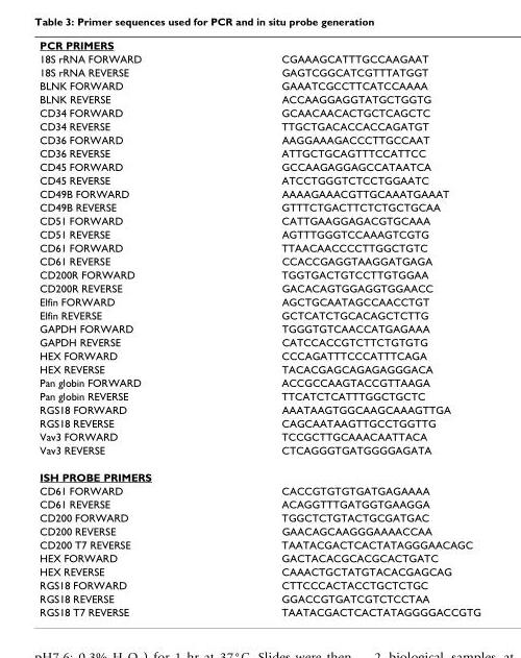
<table><tbody><tr><td colspan="2">PCR PRIMERS</td></tr><tr><td>18S rRNA FORWARD</td><td>CGAAAGCATTTGCCAAGAAT</td></tr><tr><td>18S rRNA REVERSE</td><td>GAGTCGGCATCGTTTATGGT</td></tr><tr><td>BLNK FORWARD</td><td>GAAATCGCCTTCATCCAAAA</td></tr><tr><td>BLNK REVERSE</td><td>ACCAAGGAGGTATGCTGGTG</td></tr><tr><td>CD34 FORWARD</td><td>GCAACAACACTGCTCAGCTC</td></tr><tr><td>CD34 REVERSE</td><td>TTGCTGACACCACCAGATGT</td></tr><tr><td>CD36 FORWARD</td><td>AAGGAAAGACCCTTGCCAAT</td></tr><tr><td>CD36 REVERSE</td><td>ATTGCTGCAGTTTCCATTCC</td></tr><tr><td>CD45 FORWARD</td><td>GCCAAGAGGAGCCATAATCA</td></tr><tr><td>CD45 REVERSE</td><td>ATCCTGGGTCTCCTGGAATC</td></tr><tr><td>CD49B FORWARD</td><td>AAAAGAAACGTTGCAAATGAAAT</td></tr><tr><td>CD49B REVERSE</td><td>GTTTCTGACTTCTCTGCTGCAA</td></tr><tr><td>CD51 FORWARD</td><td>CATTGAAGGAGACGTGCAAA</td></tr><tr><td>CD51 REVERSE</td><td>AGTTTGGGTCCAAAGTCGTG</td></tr><tr><td>CD61 FORWARD</td><td>TTAACAACCCCTTGGCTGTC</td></tr><tr><td>CD61 REVERSE</td><td>CCACCGAGGTAAGGATGAGA</td></tr><tr><td>CD200R FORWARD</td><td>TGGTGACTGTCCTTGTGGAA</td></tr><tr><td>CD200R REVERSE</td><td>GACACAGTGGAGGTGGAACC</td></tr><tr><td>Elfin FORWARD</td><td>AGCTGCAATAGCCAACCTGT</td></tr><tr><td>Elfin REVERSE</td><td>GCTCATCTGCACAGCTCTTG</td></tr><tr><td>GAPDH FORWARD</td><td>TGGGTGTCAACCATGAGAAA</td></tr><tr><td>GAPDH REVERSE</td><td>CATCCACCGTCTTCTGTGTG</td></tr><tr><td>HEX FORWARD</td><td>CCCAGATTTCCCATTTCAGA</td></tr><tr><td>HEX REVERSE</td><td>TACACGAGCAGAGAGGGACA</td></tr><tr><td>Pan globin FORWARD</td><td>ACCGCCAAGTACCGTTAAGA</td></tr><tr><td>Pan globin REVERSE</td><td>TTCATCTCATTTGGCTGCTC</td></tr><tr><td>RGS18 FORWARD</td><td>AAATAAGTGGCAAGCAAAGTTGA</td></tr><tr><td>RGS18 REVERSE</td><td>CAGCAATAAGTTGCCTGGTTG</td></tr><tr><td>Vav3 FORWARD</td><td>TCCGCTTGCAAACAATTACA</td></tr><tr><td>Vav3 REVERSE</td><td>CTCAGGGTGATGGGGAGATA</td></tr><tr><td colspan="2">ISH PROBE PRIMERS</td></tr><tr><td>CD61 FORWARD</td><td>CACCGTGTGTGATGAGAAAA</td></tr><tr><td>CD61 REVERSE</td><td>ACAGGTTTGATGGTGAAGGA</td></tr><tr><td>CD200 FORWARD</td><td>TGGCTCTGTACTGCGATGAC</td></tr><tr><td>CD200 REVERSE</td><td>GAACAGCAAGGGAAAACCAA</td></tr><tr><td>CD200 T7 REVERSE</td><td>TAATACGACTCACTATAGGGAACAGC</td></tr><tr><td>HEX FORWARD</td><td>GACTACACGCACGCACTGATC</td></tr><tr><td>HEX REVERSE</td><td>CAAACTGCTATGTACACGAGCAG</td></tr><tr><td>RGS18 FORWARD</td><td>CTTCCCACTACCTGCTCTGC</td></tr><tr><td>RGS18 REVERSE</td><td>GGACCGTGATCGTCTCCTAA</td></tr><tr><td>RGS18 T7 REVERSE</td><td>TAATACGACTCACTATAGGGGACCGTG</td></tr></tbody></table>